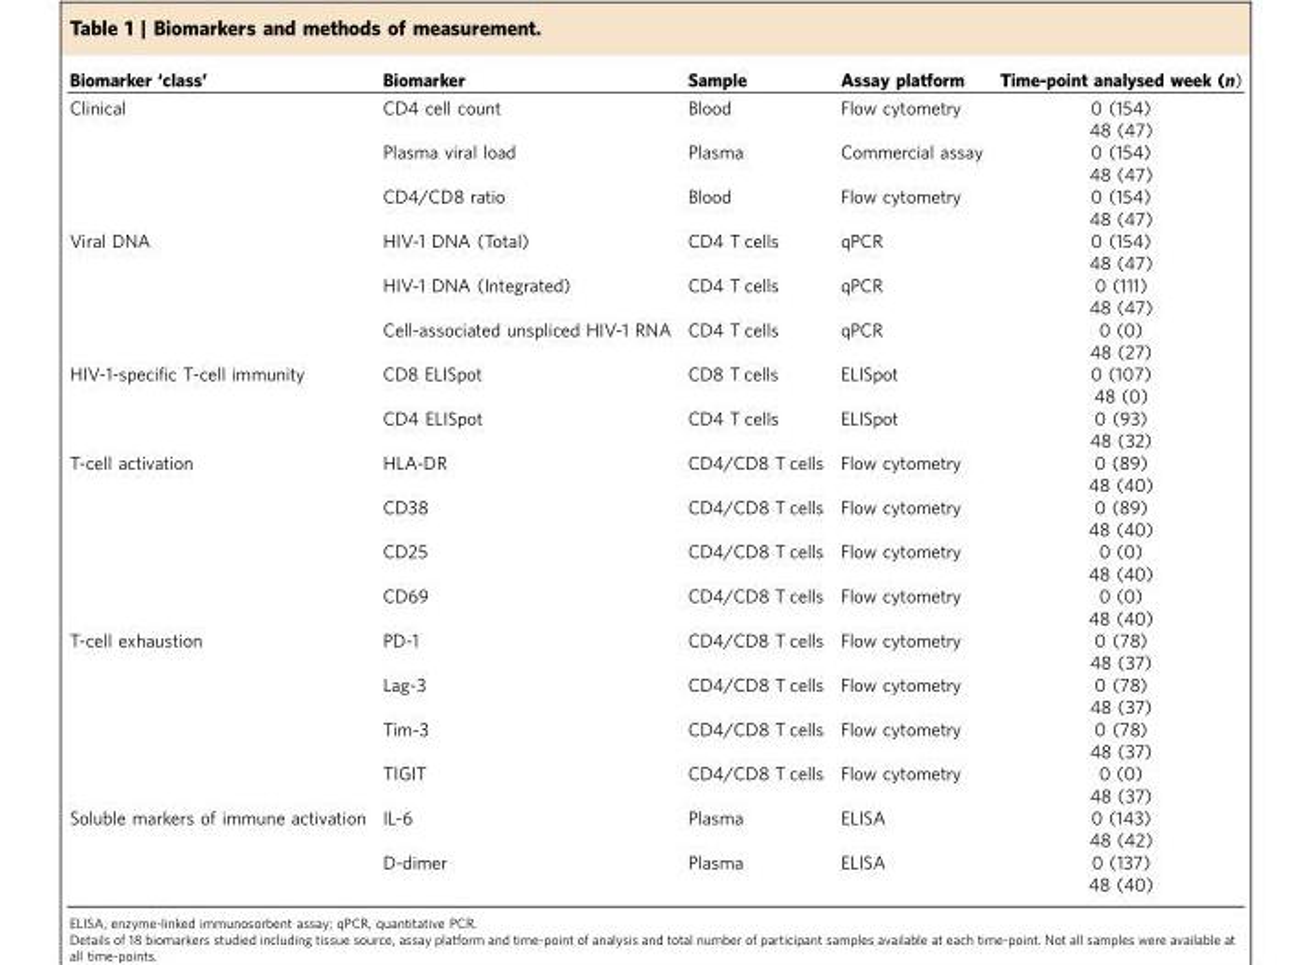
<table><thead><tr><td>Biomarker ‘class’</td><td>Biomarker</td><td>Sample</td><td>Assay platform</td><td>Time-point analysed week (n)</td></tr></thead><tbody><tr><td rowspan="3">Clinical</td><td>CD4 cell count</td><td>Blood</td><td>Flow cytometry</td><td>0 (154) 48 (47)</td></tr><tr><td>Plasma viral load</td><td>Plasma</td><td>Commercial assay</td><td>0 (154) 48 (47)</td></tr><tr><td>CD4/CD8 ratio</td><td>Blood</td><td>Flow cytometry</td><td>0 (154) 48 (47)</td></tr><tr><td rowspan="3">Viral DNA</td><td>HIV-1 DNA (Total)</td><td>CD4 T cells</td><td>qPCR</td><td>0 (154) 48 (47)</td></tr><tr><td>HIV-1 DNA (Integrated)</td><td>CD4 T cells</td><td>qPCR</td><td>0 (111) 48 (47)</td></tr><tr><td>Cell-associated unspliced HIV-1 RNA</td><td>CD4 T cells</td><td>qPCR</td><td>0 (0) 48 (27)</td></tr><tr><td rowspan="2">HIV-1-specific T-cell immunity</td><td>CD8 ELISpot</td><td>CD8 T cells</td><td>ELISpot</td><td>0 (107) 48 (0)</td></tr><tr><td>CD4 ELISpot</td><td>CD4 T cells</td><td>ELISpot</td><td>0 (93) 48 (32)</td></tr><tr><td rowspan="4">T-cell activation</td><td>HLA-DR</td><td>CD4/CD8 T cells</td><td>Flow cytometry</td><td>0 (89) 48 (40)</td></tr><tr><td>CD38</td><td>CD4/CD8 T cells</td><td>Flow cytometry</td><td>0 (89) 48 (40)</td></tr><tr><td>CD25</td><td>CD4/CD8 T cells</td><td>Flow cytometry</td><td>0 (0) 48 (40)</td></tr><tr><td>CD69</td><td>CD4/CD8 T cells</td><td>Flow cytometry</td><td>0 (0) 48 (40)</td></tr><tr><td rowspan="4">T-cell exhaustion</td><td>PD-1</td><td>CD4/CD8 T cells</td><td>Flow cytometry</td><td>0 (78) 48 (37)</td></tr><tr><td>Lag-3</td><td>CD4/CD8 T cells</td><td>Flow cytometry</td><td>0 (78) 48 (37)</td></tr><tr><td>Tim-3</td><td>CD4/CD8 T cells</td><td>Flow cytometry</td><td>0 (78) 48 (37)</td></tr><tr><td>TIGIT</td><td>CD4/CD8 T cells</td><td>Flow cytometry</td><td>0 (0) 48 (37)</td></tr><tr><td rowspan="2">Soluble markers of immune activation</td><td>IL-6</td><td>Plasma</td><td>ELISA</td><td>0 (143) 48 (42)</td></tr><tr><td>D-dimer</td><td>Plasma</td><td>ELISA</td><td>0 (137) 48 (40)</td></tr></tbody></table>